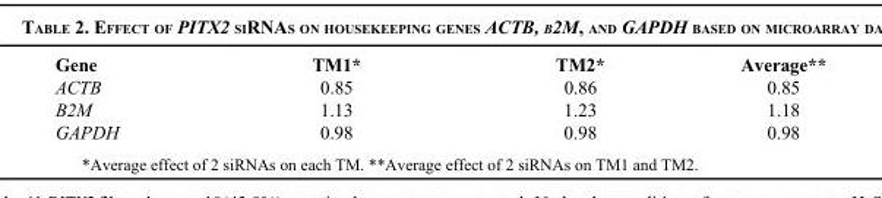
<table><thead><tr><td>Gene</td><td>TM1*</td><td>TM2*</td><td>Average**</td></tr></thead><tbody><tr><td>ACTB</td><td>0.85</td><td>0.86</td><td>0.85</td></tr><tr><td>B2M</td><td>1.13</td><td>1.23</td><td>1.18</td></tr><tr><td>GAPDH</td><td>0.98</td><td>0.98</td><td>0.98</td></tr></tbody></table>